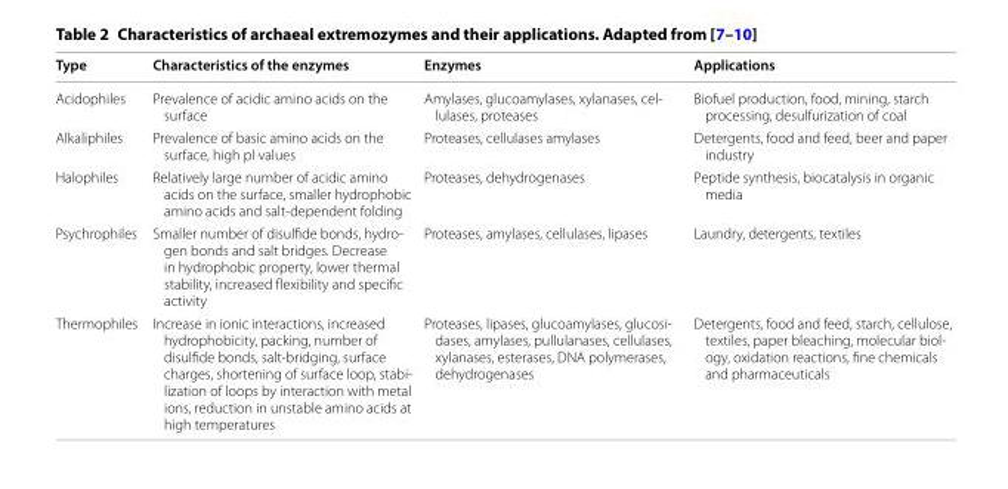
<table><thead><tr><td>Type</td><td>Characteristics of the enzymes</td><td>Enzymes</td><td>Applications</td></tr></thead><tbody><tr><td>Acidophiles</td><td>Prevalence of acidic amino acids on the surface</td><td>Amylases, glucoamylases, xylanases, cel- lulases, proteases</td><td>Biofuel production, food, mining, starch processing, desulfurization of coal</td></tr><tr><td>Alkaliphiles</td><td>Prevalence of basic amino acids on the surface, high pI values</td><td>Proteases, cellulases amylases</td><td>Detergents, food and feed, beer and paper industry</td></tr><tr><td>Halophiles</td><td>Relatively large number of acidic amino acids on the surface, smaller hydrophobic amino acids and salt-dependent folding</td><td>Proteases, dehydrogenases</td><td>Peptide synthesis, biocatalysis in organic media</td></tr><tr><td>Psychrophiles</td><td>Smaller number of disulfide bonds, hydro- gen bonds and salt bridges. Decrease in hydrophobic property, lower thermal stability, increased flexibility and specific activity</td><td>Proteases, amylases, cellulases, lipases</td><td>Laundry, detergents, textiles</td></tr><tr><td>Thermophiles</td><td>Increase in ionic interactions, increased hydrophobicity, packing, number of disulfide bonds, salt-bridging, surface charges, shortening of surface loop, stabi- lization of loops by interaction with metal ions, reduction in unstable amino acids at high temperatures</td><td>Proteases, lipases, glucoamylases, glucosi- dases, amylases, pullulanases, cellulases, xylanases, esterases, DNA polymerases, dehydrogenases</td><td>Detergents, food and feed, starch, cellulose, textiles, paper bleaching, molecular biol- ogy, oxidation reactions, fine chemicals and pharmaceuticals</td></tr></tbody></table>